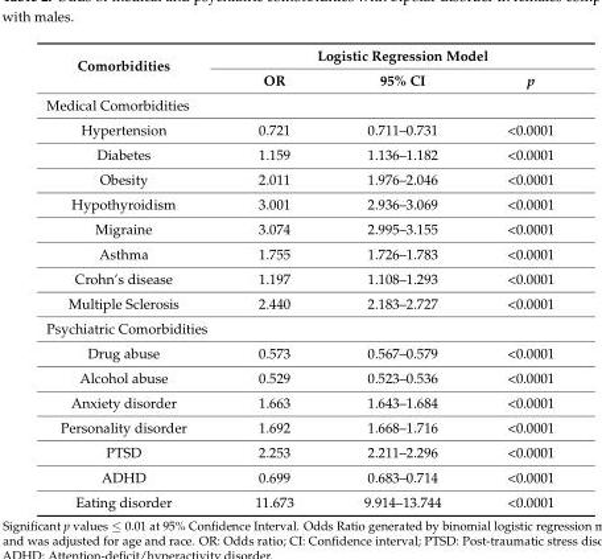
<table><thead><tr><td rowspan="2">Comorbidities</td><td colspan="3">Logistic Regression Model</td></tr><tr><td>OR</td><td>95% CI</td><td>p</td></tr></thead><tbody><tr><td colspan="4">Medical Comorbidities</td></tr><tr><td>Hypertension</td><td>0.721</td><td>0.711–0.731</td><td>&lt;0.0001</td></tr><tr><td>Diabetes</td><td>1.159</td><td>1.136–1.182</td><td>&lt;0.0001</td></tr><tr><td>Obesity</td><td>2.011</td><td>1.976–2.046</td><td>&lt;0.0001</td></tr><tr><td>Hypothyroidism</td><td>3.001</td><td>2.936–3.069</td><td>&lt;0.0001</td></tr><tr><td>Migraine</td><td>3.074</td><td>2.995–3.155</td><td>&lt;0.0001</td></tr><tr><td>Asthma</td><td>1.755</td><td>1.726–1.783</td><td>&lt;0.0001</td></tr><tr><td>Crohn’s disease</td><td>1.197</td><td>1.108–1.293</td><td>&lt;0.0001</td></tr><tr><td>Multiple Sclerosis</td><td>2.440</td><td>2.183–2.727</td><td>&lt;0.0001</td></tr><tr><td colspan="4">Psychiatric Comorbidities</td></tr><tr><td>Drug abuse</td><td>0.573</td><td>0.567–0.579</td><td>&lt;0.0001</td></tr><tr><td>Alcohol abuse</td><td>0.529</td><td>0.523–0.536</td><td>&lt;0.0001</td></tr><tr><td>Anxiety disorder</td><td>1.663</td><td>1.643–1.684</td><td>&lt;0.0001</td></tr><tr><td>Personality disorder</td><td>1.692</td><td>1.668–1.716</td><td>&lt;0.0001</td></tr><tr><td>PTSD</td><td>2.253</td><td>2.211–2.296</td><td>&lt;0.0001</td></tr><tr><td>ADHD</td><td>0.699</td><td>0.683–0.714</td><td>&lt;0.0001</td></tr><tr><td>Eating disorder</td><td>11.673</td><td>9.914–13.744</td><td>&lt;0.0001</td></tr></tbody></table>